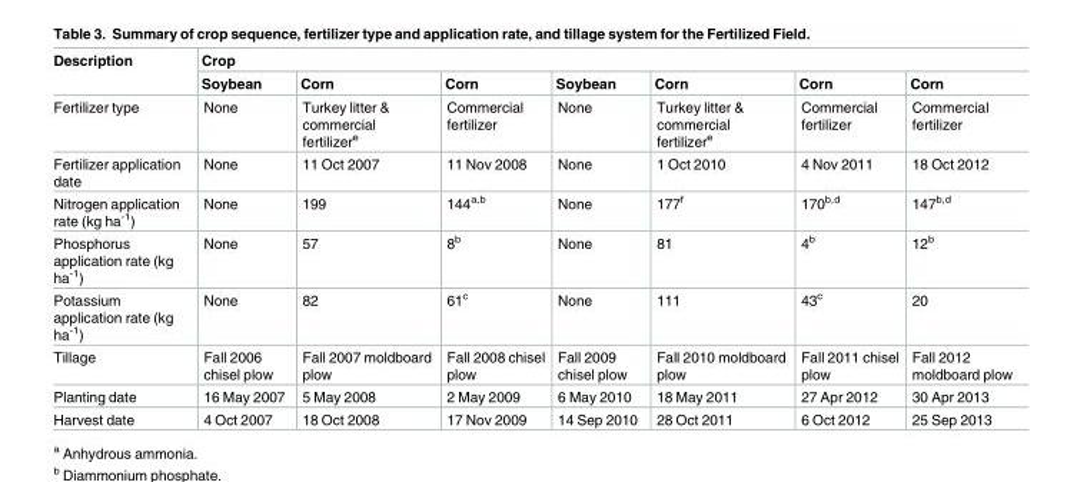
<table><thead><tr><td rowspan="2">Description</td><td colspan="7">Crop</td></tr><tr><td>Soybean</td><td>Corn</td><td>Corn</td><td>Soybean</td><td>Corn</td><td>Corn</td><td>Corn</td></tr></thead><tbody><tr><td>Fertilizer type</td><td>None</td><td>Turkey litter &amp; commercial fertilizer<sup>e</sup></td><td>Commercial fertilizer</td><td>None</td><td>Turkey litter &amp; commercial fertilizer<sup>e</sup></td><td>Commercial fertilizer</td><td>Commercial fertilizer</td></tr><tr><td>Fertilizer application date</td><td>None</td><td>11 Oct 2007</td><td>11 Nov 2008</td><td>None</td><td>1 Oct 2010</td><td>4 Nov 2011</td><td>18 Oct 2012</td></tr><tr><td>Nitrogen application rate (kg ha<sup>-1</sup>)</td><td>None</td><td>199</td><td>144<sup>a,b</sup></td><td>None</td><td>177<sup>f</sup></td><td>170<sup>b,d</sup></td><td>147<sup>b,d</sup></td></tr><tr><td>Phosphorus application rate (kg ha<sup>-1</sup>)</td><td>None</td><td>57</td><td>8<sup>b</sup></td><td>None</td><td>81</td><td>4<sup>b</sup></td><td>12<sup>b</sup></td></tr><tr><td>Potassium application rate (kg ha<sup>-1</sup>)</td><td>None</td><td>82</td><td>61<sup>c</sup></td><td>None</td><td>111</td><td>43<sup>c</sup></td><td>20</td></tr><tr><td>Tillage</td><td>Fall 2006 chisel plow</td><td>Fall 2007 moldboard plow</td><td>Fall 2008 chisel plow</td><td>Fall 2009 chisel plow</td><td>Fall 2010 moldboard plow</td><td>Fall 2011 chisel plow</td><td>Fall 2012 moldboard plow</td></tr><tr><td>Planting date</td><td>16 May 2007</td><td>5 May 2008</td><td>2 May 2009</td><td>6 May 2010</td><td>18 May 2011</td><td>27 Apr 2012</td><td>30 Apr 2013</td></tr><tr><td>Harvest date</td><td>4 Oct 2007</td><td>18 Oct 2008</td><td>17 Nov 2009</td><td>14 Sep 2010</td><td>28 Oct 2011</td><td>6 Oct 2012</td><td>25 Sep 2013</td></tr></tbody></table>